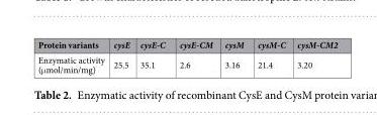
<table><thead><tr><td>Protein variants</td><td>cysE</td><td>cysE-C</td><td>cysE-CM</td><td>cysM</td><td>cysM-C</td><td>cysM-CM2</td></tr></thead><tbody><tr><td>Enzymatic activity (μmol/min/mg)</td><td>25.5</td><td>35.1</td><td>2.6</td><td>3.16</td><td>21.4</td><td>3.20</td></tr></tbody></table>